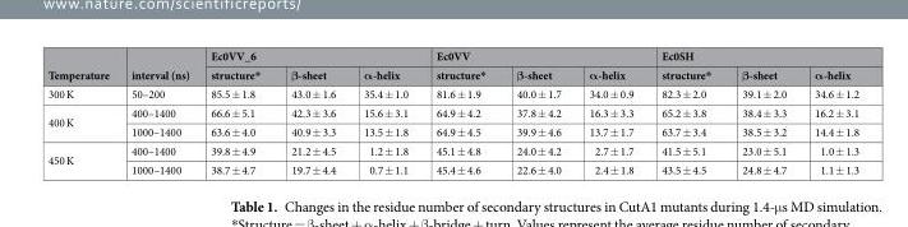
<table><thead><tr><td rowspan="2">Temperature</td><td rowspan="2">interval (ns)</td><td colspan="3">Ec0VV_6</td><td colspan="3">Ec0VV</td><td colspan="3">Ec0SH</td></tr><tr><td>structure*</td><td>β-sheet</td><td>α-helix</td><td>structure*</td><td>β-sheet</td><td>α-helix</td><td>structure*</td><td>β-sheet</td><td>α-helix</td></tr></thead><tbody><tr><td>300 K</td><td>50–200</td><td>85.5 ± 1.8</td><td>43.0 ± 1.6</td><td>35.4 ± 1.0</td><td>81.6 ± 1.9</td><td>40.0 ± 1.7</td><td>34.0 ± 0.9</td><td>82.3 ± 2.0</td><td>39.1 ± 2.0</td><td>34.6 ± 1.2</td></tr><tr><td rowspan="2">400 K</td><td>400–1400</td><td>66.6 ± 5.1</td><td>42.3 ± 3.6</td><td>15.6 ± 3.1</td><td>64.9 ± 4.2</td><td>37.8 ± 4.2</td><td>16.3 ± 3.3</td><td>65.2 ± 3.8</td><td>38.4 ± 3.3</td><td>16.2 ± 3.1</td></tr><tr><td>1000–1400</td><td>63.6 ± 4.0</td><td>40.9 ± 3.3</td><td>13.5 ± 1.8</td><td>64.9 ± 4.5</td><td>39.9 ± 4.6</td><td>13.7 ± 1.7</td><td>63.7 ± 3.4</td><td>38.5 ± 3.2</td><td>14.4 ± 1.8</td></tr><tr><td rowspan="2">450 K</td><td>400–1400</td><td>39.8 ± 4.9</td><td>21.2 ± 4.5</td><td>1.2 ± 1.8</td><td>45.1 ± 4.8</td><td>24.0 ± 4.2</td><td>2.7 ± 1.7</td><td>41.5 ± 5.1</td><td>23.0 ± 5.1</td><td>1.0 ± 1.3</td></tr><tr><td>1000–1400</td><td>38.7 ± 4.7</td><td>19.7 ± 4.4</td><td>0.7 ± 1.1</td><td>45.4 ± 4.6</td><td>22.6 ± 4.0</td><td>2.4 ± 1.8</td><td>43.5 ± 4.5</td><td>24.8 ± 4.7</td><td>1.1 ± 1.3</td></tr></tbody></table>